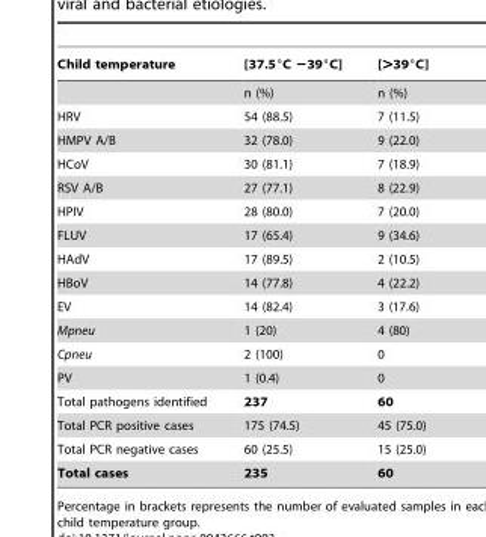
<table><thead><tr><td>Child temperature</td><td>[37.5°C −39°C]</td><td>[&gt;39°C]</td></tr></thead><tbody><tr><td></td><td>n (%)</td><td>n (%)</td></tr><tr><td>HRV</td><td>54 (88.5)</td><td>7 (11.5)</td></tr><tr><td>HMPV A/B</td><td>32 (78.0)</td><td>9 (22.0)</td></tr><tr><td>HCoV</td><td>30 (81.1)</td><td>7 (18.9)</td></tr><tr><td>RSV A/B</td><td>27 (77.1)</td><td>8 (22.9)</td></tr><tr><td>HPIV</td><td>28 (80.0)</td><td>7 (20.0)</td></tr><tr><td>FLUV</td><td>17 (65.4)</td><td>9 (34.6)</td></tr><tr><td>HAdV</td><td>17 (89.5)</td><td>2 (10.5)</td></tr><tr><td>HBoV</td><td>14 (77.8)</td><td>4 (22.2)</td></tr><tr><td>EV</td><td>14 (82.4)</td><td>3 (17.6)</td></tr><tr><td>Mpneu</td><td>1 (20)</td><td>4 (80)</td></tr><tr><td>Cpneu</td><td>2 (100)</td><td>0</td></tr><tr><td>PV</td><td>1 (0.4)</td><td>0</td></tr><tr><td>Total pathogens identified</td><td>237</td><td>60</td></tr><tr><td>Total PCR positive cases</td><td>175 (74.5)</td><td>45 (75.0)</td></tr><tr><td>Total PCR negative cases</td><td>60 (25.5)</td><td>15 (25.0)</td></tr><tr><td>Total cases</td><td>235</td><td>60</td></tr></tbody></table>